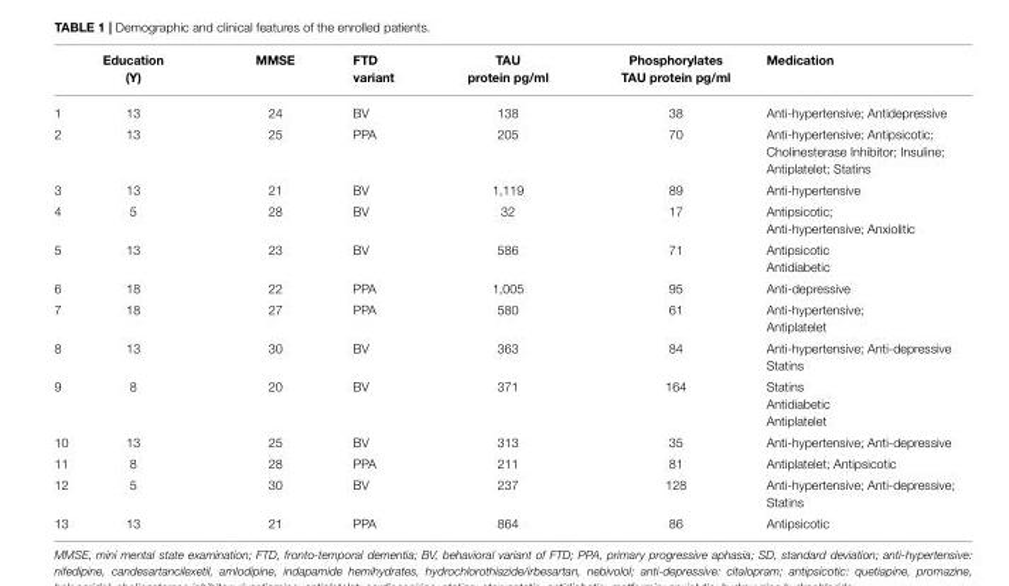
<table><thead><tr><td></td><td>Education (Y)</td><td>MMSE</td><td>FTD variant</td><td>TAU protein pg/ml</td><td>Phosphorylates TAU protein pg/ml</td><td>Medication</td></tr></thead><tbody><tr><td>1</td><td>13</td><td>24</td><td>BV</td><td>138</td><td>38</td><td>Anti-hypertensive; Antidepressive</td></tr><tr><td>2</td><td>13</td><td>25</td><td>PPA</td><td>205</td><td>70</td><td>Anti-hypertensive; Antipsicotic; Cholinesterase Inhibitor; Insuline; Antiplatelet; Statins</td></tr><tr><td>3</td><td>13</td><td>21</td><td>BV</td><td>1,119</td><td>89</td><td>Anti-hypertensive</td></tr><tr><td>4</td><td>5</td><td>28</td><td>BV</td><td>32</td><td>17</td><td>Antipsicotic; Anti-hypertensive; Anxiolitic</td></tr><tr><td>5</td><td>13</td><td>23</td><td>BV</td><td>586</td><td>71</td><td>Antipsicotic Antidiabetic</td></tr><tr><td>6</td><td>18</td><td>22</td><td>PPA</td><td>1,005</td><td>95</td><td>Anti-depressive</td></tr><tr><td>7</td><td>18</td><td>27</td><td>PPA</td><td>580</td><td>61</td><td>Anti-hypertensive; Antiplatelet</td></tr><tr><td>8</td><td>13</td><td>30</td><td>BV</td><td>363</td><td>84</td><td>Anti-hypertensive; Anti-depressive Statins</td></tr><tr><td>9</td><td>8</td><td>20</td><td>BV</td><td>371</td><td>164</td><td>Statins Antidiabetic Antiplatelet</td></tr><tr><td>10</td><td>13</td><td>25</td><td>BV</td><td>313</td><td>35</td><td>Anti-hypertensive; Anti-depressive</td></tr><tr><td>11</td><td>8</td><td>28</td><td>PPA</td><td>211</td><td>81</td><td>Antiplatelet; Antipsicotic</td></tr><tr><td>12</td><td>5</td><td>30</td><td>BV</td><td>237</td><td>128</td><td>Anti-hypertensive; Anti-depressive; Statins</td></tr><tr><td>13</td><td>13</td><td>21</td><td>PPA</td><td>864</td><td>86</td><td>Antipsicotic</td></tr></tbody></table>